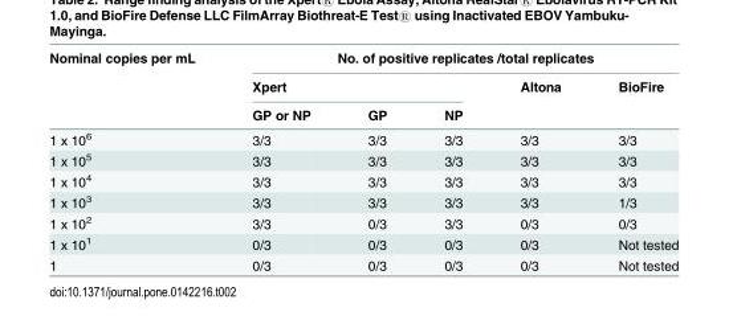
<table><thead><tr><td rowspan="3">Nominal copies per mL</td><td colspan="5">No. of positive replicates /total replicates</td></tr><tr><td colspan="3">Xpert</td><td rowspan="2">Altona</td><td rowspan="2">BioFire</td></tr><tr><td>GP or NP</td><td>GP</td><td>NP</td></tr></thead><tbody><tr><td>1 x 10<sup>6</sup></td><td>3/3</td><td>3/3</td><td>3/3</td><td>3/3</td><td>3/3</td></tr><tr><td>1 x 10<sup>5</sup></td><td>3/3</td><td>3/3</td><td>3/3</td><td>3/3</td><td>3/3</td></tr><tr><td>1 x 10<sup>4</sup></td><td>3/3</td><td>3/3</td><td>3/3</td><td>3/3</td><td>3/3</td></tr><tr><td>1 x 10<sup>3</sup></td><td>3/3</td><td>3/3</td><td>3/3</td><td>3/3</td><td>1/3</td></tr><tr><td>1 x 10<sup>2</sup></td><td>3/3</td><td>0/3</td><td>3/3</td><td>0/3</td><td>0/3</td></tr><tr><td>1 x 10<sup>1</sup></td><td>0/3</td><td>0/3</td><td>0/3</td><td>0/3</td><td>Not tested</td></tr><tr><td>1</td><td>0/3</td><td>0/3</td><td>0/3</td><td>0/3</td><td>Not tested</td></tr></tbody></table>